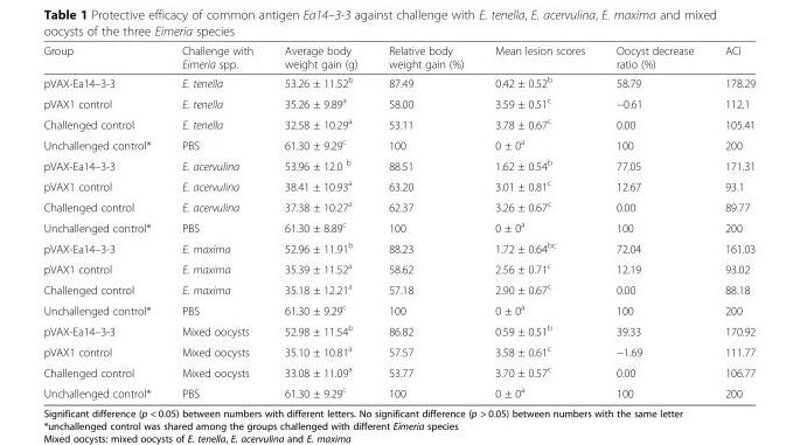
<table><thead><tr><td>Group</td><td>Challenge with Eimeria spp.</td><td>Average body weight gain (g)</td><td>Relative body weight gain (%)</td><td>Mean lesion scores</td><td>Oocyst decrease ratio (%)</td><td>ACI</td></tr></thead><tbody><tr><td>pVAX-Ea14–3-3</td><td>E. tenella</td><td>53.26 ± 11.52<sup>b</sup></td><td>87.49</td><td>0.42 ± 0.52<sup>b</sup></td><td>58.79</td><td>178.29</td></tr><tr><td>pVAX1 control</td><td>E. tenella</td><td>35.26 ± 9.89<sup>a</sup></td><td>58.00</td><td>3.59 ± 0.51<sup>c</sup></td><td>−0.61</td><td>112.1</td></tr><tr><td>Challenged control</td><td>E. tenella</td><td>32.58 ± 10.29<sup>a</sup></td><td>53.11</td><td>3.78 ± 0.67<sup>c</sup></td><td>0.00</td><td>105.41</td></tr><tr><td>Unchallenged control*</td><td>PBS</td><td>61.30 ± 9.29<sup>c</sup></td><td>100</td><td>0 ± 0<sup>a</sup></td><td>100</td><td>200</td></tr><tr><td>pVAX-Ea14–3-3</td><td>E. acervulina</td><td>53.96 ± 12.0 <sup>b</sup></td><td>88.51</td><td>1.62 ± 0.54<sup>b</sup></td><td>77.05</td><td>171.31</td></tr><tr><td>pVAX1 control</td><td>E. acervulina</td><td>38.41 ± 10.93<sup>a</sup></td><td>63.20</td><td>3.01 ± 0.81<sup>c</sup></td><td>12.67</td><td>93.1</td></tr><tr><td>Challenged control</td><td>E. acervulina</td><td>37.38 ± 10.27<sup>a</sup></td><td>62.37</td><td>3.26 ± 0.67<sup>c</sup></td><td>0.00</td><td>89.77</td></tr><tr><td>Unchallenged control*</td><td>PBS</td><td>61.30 ± 8.89<sup>c</sup></td><td>100</td><td>0 ± 0<sup>a</sup></td><td>100</td><td>200</td></tr><tr><td>pVAX-Ea14–3-3</td><td>E. maxima</td><td>52.96 ± 11.91<sup>b</sup></td><td>88.23</td><td>1.72 ± 0.64<sup>bc</sup></td><td>72.04</td><td>161.03</td></tr><tr><td>pVAX1 control</td><td>E. maxima</td><td>35.39 ± 11.52<sup>a</sup></td><td>58.62</td><td>2.56 ± 0.71<sup>c</sup></td><td>12.19</td><td>93.02</td></tr><tr><td>Challenged control</td><td>E. maxima</td><td>35.18 ± 12.21<sup>a</sup></td><td>57.18</td><td>2.90 ± 0.67<sup>c</sup></td><td>0.00</td><td>88.18</td></tr><tr><td>Unchallenged control*</td><td>PBS</td><td>61.30 ± 9.29<sup>c</sup></td><td>100</td><td>0 ± 0<sup>a</sup></td><td>100</td><td>200</td></tr><tr><td>pVAX-Ea14–3-3</td><td>Mixed oocysts</td><td>52.98 ± 11.54<sup>b</sup></td><td>86.82</td><td>0.59 ± 0.51<sup>b</sup></td><td>39.33</td><td>170.92</td></tr><tr><td>pVAX1 control</td><td>Mixed oocysts</td><td>35.10 ± 10.81<sup>a</sup></td><td>57.57</td><td>3.58 ± 0.61<sup>c</sup></td><td>−1.69</td><td>111.77</td></tr><tr><td>Challenged control</td><td>Mixed oocysts</td><td>33.08 ± 11.09<sup>a</sup></td><td>53.77</td><td>3.70 ± 0.57<sup>c</sup></td><td>0.00</td><td>106.77</td></tr><tr><td>Unchallenged control*</td><td>PBS</td><td>61.30 ± 9.29<sup>c</sup></td><td>100</td><td>0 ± 0<sup>a</sup></td><td>100</td><td>200</td></tr></tbody></table>